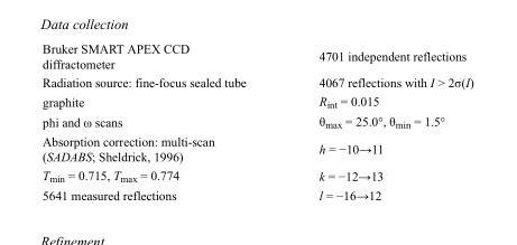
<table><tbody><tr><td>Bruker SMART APEX CCD diffractometer</td><td>4701 independent reflections</td></tr><tr><td>Radiation source: fine-focus sealed tube</td><td>4067 reflections with I &gt; 2σ(I)</td></tr><tr><td>graphite</td><td>R<sub>int</sub> = 0.015</td></tr><tr><td>phi and ω scans</td><td>θ<sub>max</sub> = 25.0°, θ<sub>min</sub> = 1.5°</td></tr><tr><td>Absorption correction: multi-scan (SADABS; Sheldrick, 1996)</td><td>h = −10→11</td></tr><tr><td>T<sub>min</sub> = 0.715, T<sub>max</sub> = 0.774</td><td>k = −12→13</td></tr><tr><td>5641 measured reflections</td><td>l = −16→12</td></tr></tbody></table>